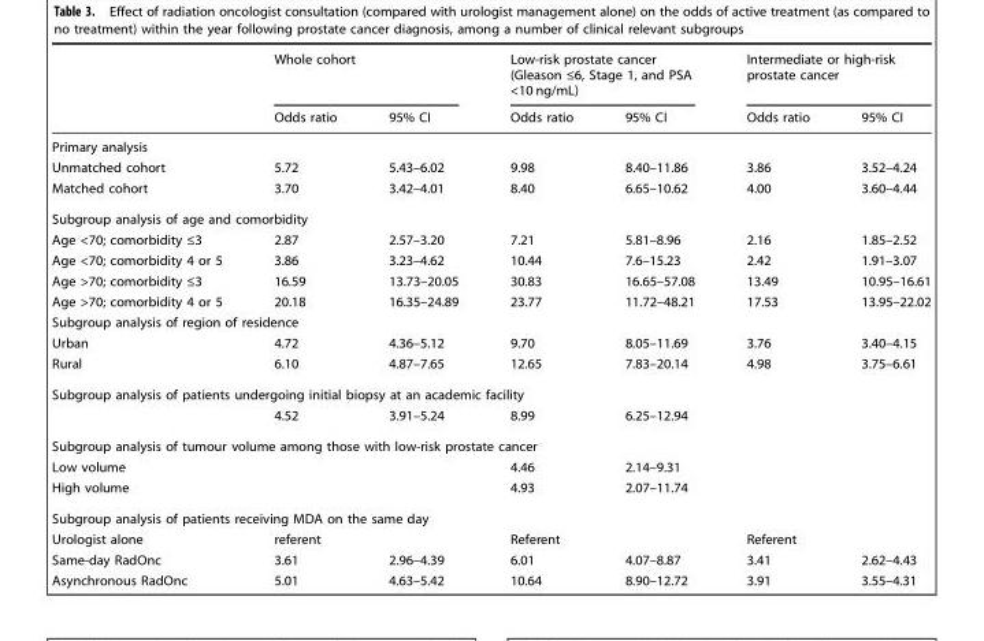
<table><thead><tr><td rowspan="2"></td><td colspan="2">Whole cohort</td><td colspan="2">Low-risk prostate cancer (Gleason ≤6, Stage 1, and PSA &lt;10 ng/mL)</td><td colspan="2">Intermediate or high-risk prostate cancer</td></tr><tr><td>Odds ratio</td><td>95% CI</td><td>Odds ratio</td><td>95% CI</td><td>Odds ratio</td><td>95% CI</td></tr></thead><tbody><tr><td colspan="7">Primary analysis</td></tr><tr><td>Unmatched cohort</td><td>5.72</td><td>5.43–6.02</td><td>9.98</td><td>8.40–11.86</td><td>3.86</td><td>3.52–4.24</td></tr><tr><td>Matched cohort</td><td>3.70</td><td>3.42–4.01</td><td>8.40</td><td>6.65–10.62</td><td>4.00</td><td>3.60–4.44</td></tr><tr><td colspan="7">Subgroup analysis of age and comorbidity</td></tr><tr><td>Age &lt;70; comorbidity ≤3</td><td>2.87</td><td>2.57–3.20</td><td>7.21</td><td>5.81–8.96</td><td>2.16</td><td>1.85–2.52</td></tr><tr><td>Age &lt;70; comorbidity 4 or 5</td><td>3.86</td><td>3.23–4.62</td><td>10.44</td><td>7.6–15.23</td><td>2.42</td><td>1.91–3.07</td></tr><tr><td>Age &gt;70; comorbidity ≤3</td><td>16.59</td><td>13.73–20.05</td><td>30.83</td><td>16.65–57.08</td><td>13.49</td><td>10.95–16.61</td></tr><tr><td>Age &gt;70; comorbidity 4 or 5</td><td>20.18</td><td>16.35–24.89</td><td>23.77</td><td>11.72–48.21</td><td>17.53</td><td>13.95–22.02</td></tr><tr><td colspan="7">Subgroup analysis of region of residence</td></tr><tr><td>Urban</td><td>4.72</td><td>4.36–5.12</td><td>9.70</td><td>8.05–11.69</td><td>3.76</td><td>3.40–4.15</td></tr><tr><td>Rural</td><td>6.10</td><td>4.87–7.65</td><td>12.65</td><td>7.83–20.14</td><td>4.98</td><td>3.75–6.61</td></tr><tr><td colspan="7">Subgroup analysis of patients undergoing initial biopsy at an academic facility</td></tr><tr><td></td><td>4.52</td><td>3.91–5.24</td><td>8.99</td><td>6.25–12.94</td><td></td><td></td></tr><tr><td colspan="7">Subgroup analysis of tumour volume among those with low-risk prostate cancer</td></tr><tr><td>Low volume</td><td></td><td></td><td>4.46</td><td>2.14–9.31</td><td></td><td></td></tr><tr><td>High volume</td><td></td><td></td><td>4.93</td><td>2.07–11.74</td><td></td><td></td></tr><tr><td colspan="7">Subgroup analysis of patients receiving MDA on the same day</td></tr><tr><td>Urologist alone</td><td colspan="2">referent</td><td colspan="2">Referent</td><td colspan="2">Referent</td></tr><tr><td>Same-day RadOnc</td><td>3.61</td><td>2.96–4.39</td><td>6.01</td><td>4.07–8.87</td><td>3.41</td><td>2.62–4.43</td></tr><tr><td>Asynchronous RadOnc</td><td>5.01</td><td>4.63–5.42</td><td>10.64</td><td>8.90–12.72</td><td>3.91</td><td>3.55–4.31</td></tr></tbody></table>